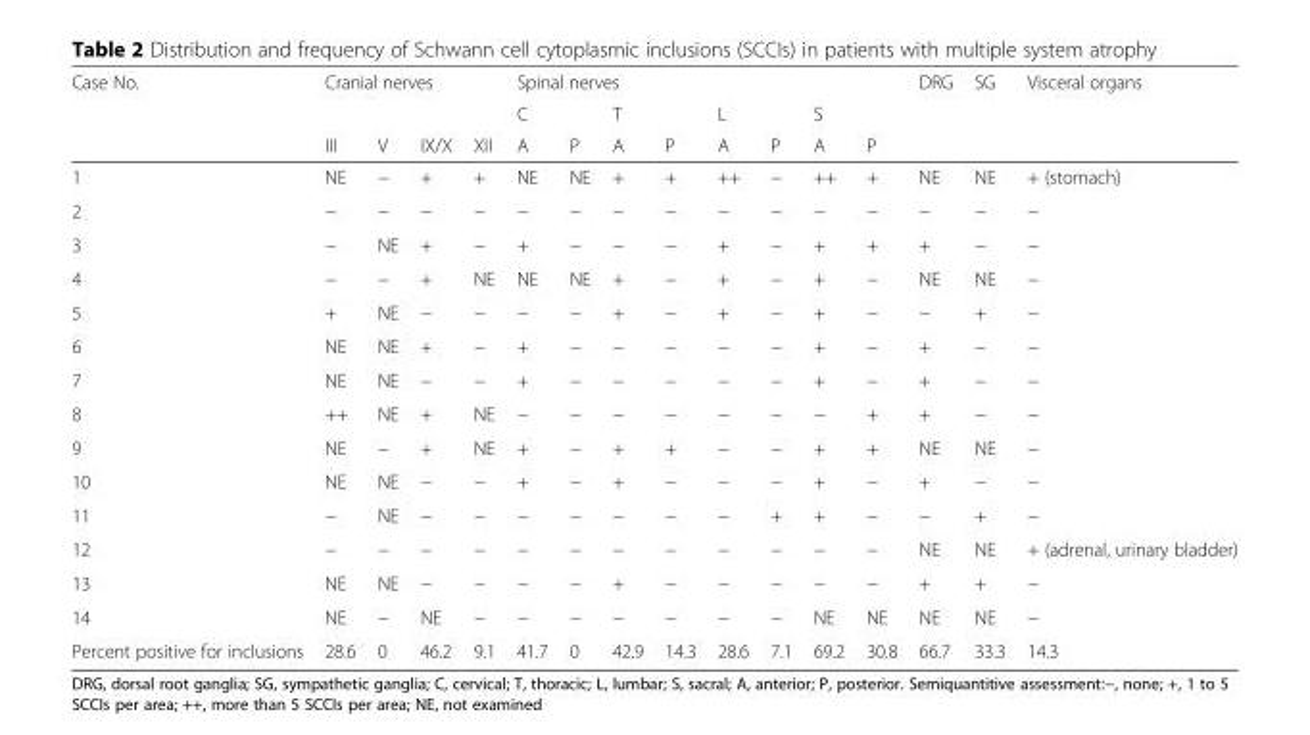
<table><thead><tr><td rowspan="3">Case No.</td><td rowspan="2" colspan="4">Cranial nerves</td><td colspan="8">Spinal nerves</td><td rowspan="3">DRG</td><td rowspan="3">SG</td><td rowspan="3">Visceral organs</td></tr><tr><td colspan="2">C</td><td colspan="2">T</td><td colspan="2">L</td><td colspan="2">S</td></tr><tr><td>III</td><td>V</td><td>IX/X</td><td>XII</td><td>A</td><td>P</td><td>A</td><td>P</td><td>A</td><td>P</td><td>A</td><td>P</td></tr></thead><tbody><tr><td>1</td><td>NE</td><td>−</td><td>+</td><td>+</td><td>NE</td><td>NE</td><td>+</td><td>+</td><td>++</td><td>−</td><td>++</td><td>+</td><td>NE</td><td>NE</td><td>+ (stomach)</td></tr><tr><td>2</td><td>−</td><td>−</td><td>−</td><td>−</td><td>−</td><td>−</td><td>−</td><td>−</td><td>−</td><td>−</td><td>−</td><td>−</td><td>−</td><td>−</td><td>−</td></tr><tr><td>3</td><td>−</td><td>NE</td><td>+</td><td>−</td><td>+</td><td>−</td><td>−</td><td>−</td><td>+</td><td>−</td><td>+</td><td>+</td><td>+</td><td>−</td><td>−</td></tr><tr><td>4</td><td>−</td><td>−</td><td>+</td><td>NE</td><td>NE</td><td>NE</td><td>+</td><td>−</td><td>+</td><td>−</td><td>+</td><td>−</td><td>NE</td><td>NE</td><td>−</td></tr><tr><td>5</td><td>+</td><td>NE</td><td>−</td><td>−</td><td>−</td><td>−</td><td>+</td><td>−</td><td>+</td><td>−</td><td>+</td><td>−</td><td>−</td><td>+</td><td>−</td></tr><tr><td>6</td><td>NE</td><td>NE</td><td>+</td><td>−</td><td>+</td><td>−</td><td>−</td><td>−</td><td>−</td><td>−</td><td>+</td><td>−</td><td>+</td><td>−</td><td>−</td></tr><tr><td>7</td><td>NE</td><td>NE</td><td>−</td><td>−</td><td>+</td><td>−</td><td>−</td><td>−</td><td>−</td><td>−</td><td>+</td><td>−</td><td>+</td><td>−</td><td>−</td></tr><tr><td>8</td><td>++</td><td>NE</td><td>+</td><td>NE</td><td>−</td><td>−</td><td>−</td><td>−</td><td>−</td><td>−</td><td>−</td><td>+</td><td>+</td><td>−</td><td>−</td></tr><tr><td>9</td><td>NE</td><td>−</td><td>+</td><td>NE</td><td>+</td><td>−</td><td>+</td><td>+</td><td>−</td><td>−</td><td>+</td><td>+</td><td>NE</td><td>NE</td><td>−</td></tr><tr><td>10</td><td>NE</td><td>NE</td><td>−</td><td>−</td><td>+</td><td>−</td><td>+</td><td>−</td><td>−</td><td>−</td><td>+</td><td>−</td><td>+</td><td>−</td><td>−</td></tr><tr><td>11</td><td>−</td><td>NE</td><td>−</td><td>−</td><td>−</td><td>−</td><td>−</td><td>−</td><td>−</td><td>+</td><td>+</td><td>−</td><td>−</td><td>+</td><td>−</td></tr><tr><td>12</td><td>−</td><td>−</td><td>−</td><td>−</td><td>−</td><td>−</td><td>−</td><td>−</td><td>−</td><td>−</td><td>−</td><td>−</td><td>NE</td><td>NE</td><td>+ (adrenal, urinary bladder)</td></tr><tr><td>13</td><td>NE</td><td>NE</td><td>−</td><td>−</td><td>−</td><td>−</td><td>+</td><td>−</td><td>−</td><td>−</td><td>−</td><td>−</td><td>+</td><td>+</td><td>−</td></tr><tr><td>14</td><td>NE</td><td>−</td><td>NE</td><td>−</td><td>−</td><td>−</td><td>−</td><td>−</td><td>−</td><td>−</td><td>NE</td><td>NE</td><td>NE</td><td>NE</td><td>−</td></tr><tr><td>Percent positive for inclusions</td><td>28.6</td><td>0</td><td>46.2</td><td>9.1</td><td>41.7</td><td>0</td><td>42.9</td><td>14.3</td><td>28.6</td><td>7.1</td><td>69.2</td><td>30.8</td><td>66.7</td><td>33.3</td><td>14.3</td></tr></tbody></table>